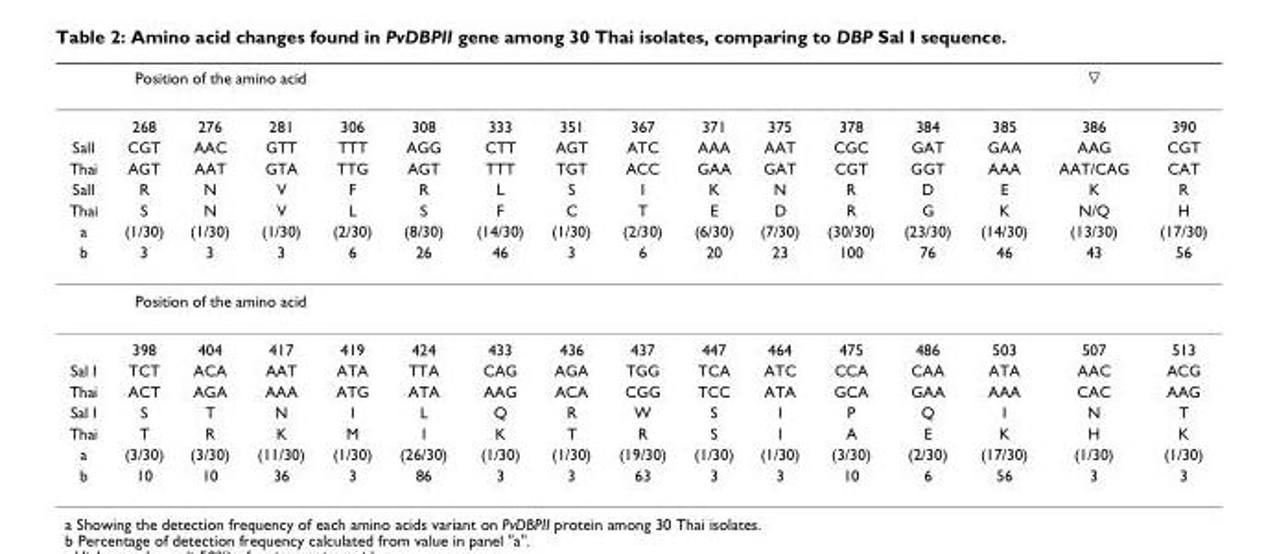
<table><thead><tr><td colspan="5">Position of the amino acid</td><td rowspan="2">308</td><td rowspan="2">333</td><td rowspan="2">351</td><td rowspan="2">367</td><td rowspan="2">371</td><td rowspan="2">375</td><td rowspan="2">378</td><td rowspan="2">384</td><td rowspan="2">385</td><td rowspan="2">Ќ 386</td><td rowspan="2">390</td></tr><tr><td></td><td>268</td><td>276</td><td>281</td><td>306</td></tr></thead><tbody><tr><td>SalI</td><td>CGT</td><td>AAC</td><td>GTT</td><td>TTT</td><td>AGG</td><td>CTT</td><td>AGT</td><td>ATC</td><td>AAA</td><td>AAT</td><td>CGC</td><td>GAT</td><td>GAA</td><td>AAG</td><td>CGT</td></tr><tr><td>Thai</td><td>AGT</td><td>AAT</td><td>GTA</td><td>TTG</td><td>AGT</td><td>TTT</td><td>TGT</td><td>ACC</td><td>GAA</td><td>GAT</td><td>CGT</td><td>GGT</td><td>AAA</td><td>AAT/CAG</td><td>CAT</td></tr><tr><td>SalI</td><td>R</td><td>N</td><td>V</td><td>F</td><td>R</td><td>L</td><td>S</td><td>I</td><td>K</td><td>N</td><td>R</td><td>D</td><td>E</td><td>K</td><td>R</td></tr><tr><td>Thai</td><td>S</td><td>N</td><td>V</td><td>L</td><td>S</td><td>F</td><td>C</td><td>T</td><td>E</td><td>D</td><td>R</td><td>G</td><td>K</td><td>N/Q</td><td>H</td></tr><tr><td>a</td><td>(1/30)</td><td>(1/30)</td><td>(1/30)</td><td>(2/30)</td><td>(8/30)</td><td>(14/30)</td><td>(1/30)</td><td>(2/30)</td><td>(6/30)</td><td>(7/30)</td><td>(30/30)</td><td>(23/30)</td><td>(14/30)</td><td>(13/30)</td><td>(17/30)</td></tr><tr><td>b</td><td>3</td><td>3</td><td>3</td><td>6</td><td>26</td><td>46</td><td>3</td><td>6</td><td>20</td><td>23</td><td>100</td><td>76</td><td>46</td><td>43</td><td>56</td></tr><tr><td colspan="5">Position of the amino acid</td><td></td><td></td><td></td><td></td><td></td><td></td><td></td><td></td><td></td><td></td><td></td></tr><tr><td></td><td>398</td><td>404</td><td>417</td><td>419</td><td>424</td><td>433</td><td>436</td><td>437</td><td>447</td><td>464</td><td>475</td><td>486</td><td>503</td><td>507</td><td>513</td></tr><tr><td>Sal I</td><td>TCT</td><td>ACA</td><td>AAT</td><td>ATA</td><td>TTA</td><td>CAG</td><td>AGA</td><td>TGG</td><td>TCA</td><td>ATC</td><td>CCA</td><td>CAA</td><td>ATA</td><td>AAC</td><td>ACG</td></tr><tr><td>Thai</td><td>ACT</td><td>AGA</td><td>AAA</td><td>ATG</td><td>ATA</td><td>AAG</td><td>ACA</td><td>CGG</td><td>TCC</td><td>ATA</td><td>GCA</td><td>GAA</td><td>AAA</td><td>CAC</td><td>AAG</td></tr><tr><td>Sal I</td><td>S</td><td>T</td><td>N</td><td>I</td><td>L</td><td>Q</td><td>R</td><td>W</td><td>S</td><td>I</td><td>P</td><td>Q</td><td>I</td><td>N</td><td>T</td></tr><tr><td>Thai</td><td>T</td><td>R</td><td>K</td><td>M</td><td>I</td><td>K</td><td>T</td><td>R</td><td>S</td><td>I</td><td>A</td><td>E</td><td>K</td><td>H</td><td>K</td></tr><tr><td>a</td><td>(3/30)</td><td>(3/30)</td><td>(11/30)</td><td>(1/30)</td><td>(26/30)</td><td>(1/30)</td><td>(1/30)</td><td>(19/30)</td><td>(1/30)</td><td>(1/30)</td><td>(3/30)</td><td>(2/30)</td><td>(17/30)</td><td>(1/30)</td><td>(1/30)</td></tr><tr><td>b</td><td>10</td><td>10</td><td>36</td><td>3</td><td>86</td><td>3</td><td>3</td><td>63</td><td>3</td><td>3</td><td>10</td><td>6</td><td>56</td><td>3</td><td>3</td></tr></tbody></table>